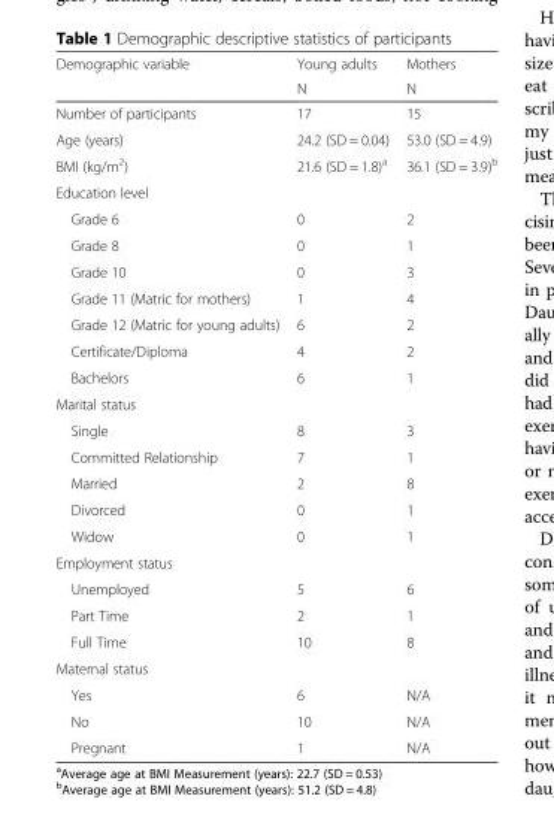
<table><thead><tr><td rowspan="2">Demographic variable</td><td rowspan="2">Young adults N</td><td rowspan="2">Mothers N</td></tr><tr></tr></thead><tbody><tr><td>Number of participants</td><td>17</td><td>15</td></tr><tr><td>Age (years)</td><td>24.2 (SD = 0.04)</td><td>53.0 (SD = 4.9)</td></tr><tr><td>BMI (kg/m<sup>2</sup>)</td><td>21.6 (SD = 1.8)<sup>a</sup></td><td>36.1 (SD = 3.9)<sup>b</sup></td></tr><tr><td colspan="3">Education level</td></tr><tr><td>Grade 6</td><td>0</td><td>2</td></tr><tr><td>Grade 8</td><td>0</td><td>1</td></tr><tr><td>Grade 10</td><td>0</td><td>3</td></tr><tr><td>Grade 11 (Matric for mothers)</td><td>1</td><td>4</td></tr><tr><td>Grade 12 (Matric for young adults)</td><td>6</td><td>2</td></tr><tr><td>Certificate/Diploma</td><td>4</td><td>2</td></tr><tr><td>Bachelors</td><td>6</td><td>1</td></tr><tr><td colspan="3">Marital status</td></tr><tr><td>Single</td><td>8</td><td>3</td></tr><tr><td>Committed Relationship</td><td>7</td><td>1</td></tr><tr><td>Married</td><td>2</td><td>8</td></tr><tr><td>Divorced</td><td>0</td><td>1</td></tr><tr><td>Widow</td><td>0</td><td>1</td></tr><tr><td colspan="3">Employment status</td></tr><tr><td>Unemployed</td><td>5</td><td>6</td></tr><tr><td>Part Time</td><td>2</td><td>1</td></tr><tr><td>Full Time</td><td>10</td><td>8</td></tr><tr><td colspan="3">Maternal status</td></tr><tr><td>Yes</td><td>6</td><td>N/A</td></tr><tr><td>No</td><td>10</td><td>N/A</td></tr><tr><td>Pregnant</td><td>1</td><td>N/A</td></tr></tbody></table>